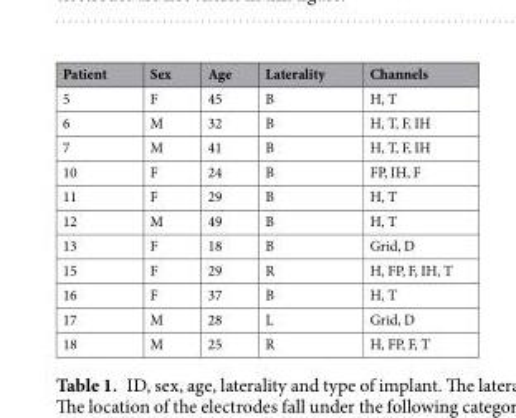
<table><thead><tr><td>Patient</td><td>Sex</td><td>Age</td><td>Laterality</td><td>Channels</td></tr></thead><tbody><tr><td>5</td><td>F</td><td>45</td><td>B</td><td>H, T</td></tr><tr><td>6</td><td>M</td><td>32</td><td>B</td><td>H, T, F, IH</td></tr><tr><td>7</td><td>M</td><td>41</td><td>B</td><td>H, T, F, IH</td></tr><tr><td>10</td><td>F</td><td>24</td><td>B</td><td>FP, IH, F</td></tr><tr><td>11</td><td>F</td><td>29</td><td>B</td><td>H, T</td></tr><tr><td>12</td><td>M</td><td>49</td><td>B</td><td>H, T</td></tr><tr><td>13</td><td>F</td><td>18</td><td>B</td><td>Grid, D</td></tr><tr><td>15</td><td>F</td><td>29</td><td>R</td><td>H, FP, F, IH, T</td></tr><tr><td>16</td><td>F</td><td>37</td><td>B</td><td>H, T</td></tr><tr><td>17</td><td>M</td><td>28</td><td>L</td><td>Grid, D</td></tr><tr><td>18</td><td>M</td><td>25</td><td>R</td><td>H, FP, F, T</td></tr></tbody></table>